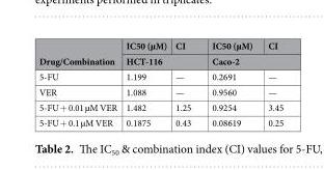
<table><thead><tr><td rowspan="2">Drug/Combination</td><td>IC50 (µM)</td><td>CI</td><td>IC50 (µM)</td><td>CI</td></tr><tr><td colspan="2">HCT-116</td><td colspan="2">Caco-2</td></tr></thead><tbody><tr><td>5-FU</td><td>1.199</td><td>—</td><td>0.2691</td><td>—</td></tr><tr><td>VER</td><td>1.088</td><td>—</td><td>0.9560</td><td>—</td></tr><tr><td>5-FU + 0.01 µM VER</td><td>1.482</td><td>1.25</td><td>0.9254</td><td>3.45</td></tr><tr><td>5-FU + 0.1 µM VER</td><td>0.1875</td><td>0.43</td><td>0.08619</td><td>0.25</td></tr></tbody></table>